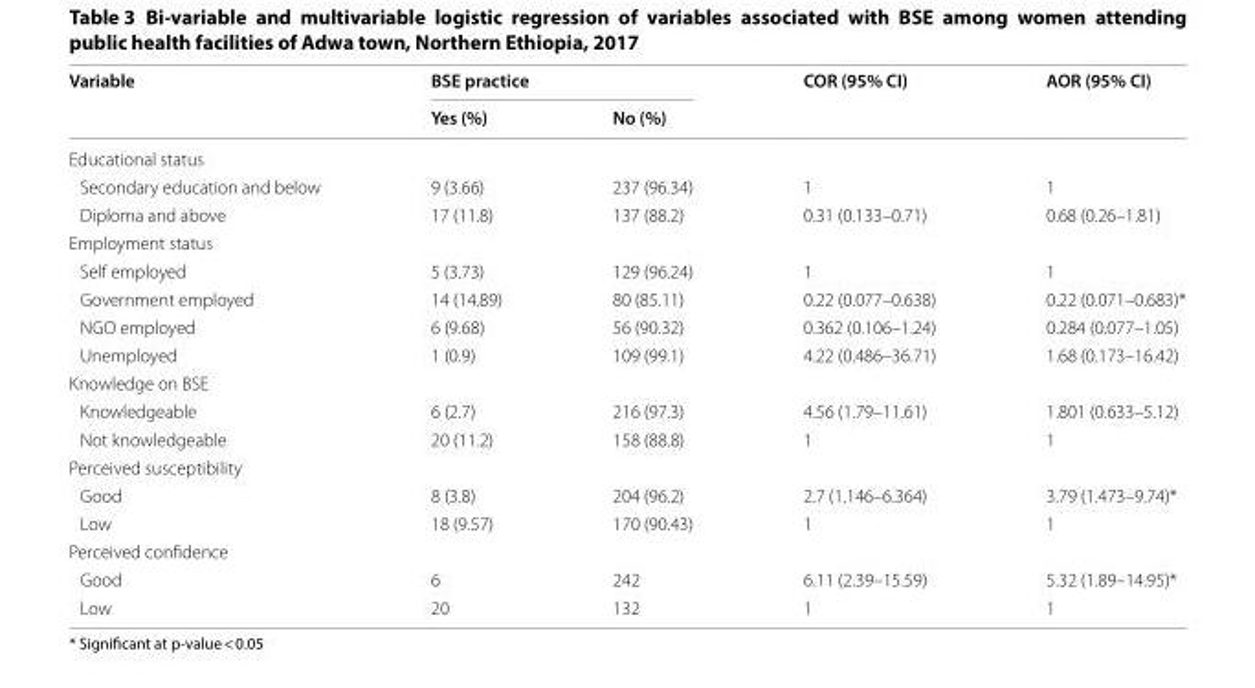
<table><thead><tr><td rowspan="2">Variable</td><td colspan="2">BSE practice</td><td rowspan="2">COR (95% CI)</td><td rowspan="2">AOR (95% CI)</td></tr><tr><td>Yes (%)</td><td>No (%)</td></tr></thead><tbody><tr><td colspan="5">Educational status</td></tr><tr><td>Secondary education and below</td><td>9 (3.66)</td><td>237 (96.34)</td><td>1</td><td>1</td></tr><tr><td>Diploma and above</td><td>17 (11.8)</td><td>137 (88.2)</td><td>0.31 (0.133–0.71)</td><td>0.68 (0.26–1.81)</td></tr><tr><td colspan="5">Employment status</td></tr><tr><td>Self employed</td><td>5 (3.73)</td><td>129 (96.24)</td><td>1</td><td>1</td></tr><tr><td>Government employed</td><td>14 (14.89)</td><td>80 (85.11)</td><td>0.22 (0.077–0.638)</td><td>0.22 (0.071–0.683)*</td></tr><tr><td>NGO employed</td><td>6 (9.68)</td><td>56 (90.32)</td><td>0.362 (0.106–1.24)</td><td>0.284 (0.077–1.05)</td></tr><tr><td>Unemployed</td><td>1 (0.9)</td><td>109 (99.1)</td><td>4.22 (0.486–36.71)</td><td>1.68 (0.173–16.42)</td></tr><tr><td colspan="5">Knowledge on BSE</td></tr><tr><td>Knowledgeable</td><td>6 (2.7)</td><td>216 (97.3)</td><td>4.56 (1.79–11.61)</td><td>1.801 (0.633–5.12)</td></tr><tr><td>Not knowledgeable</td><td>20 (11.2)</td><td>158 (88.8)</td><td>1</td><td>1</td></tr><tr><td colspan="5">Perceived susceptibility</td></tr><tr><td>Good</td><td>8 (3.8)</td><td>204 (96.2)</td><td>2.7 (1.146–6.364)</td><td>3.79 (1.473–9.74)*</td></tr><tr><td>Low</td><td>18 (9.57)</td><td>170 (90.43)</td><td>1</td><td>1</td></tr><tr><td colspan="5">Perceived confidence</td></tr><tr><td>Good</td><td>6</td><td>242</td><td>6.11 (2.39–15.59)</td><td>5.32 (1.89–14.95)*</td></tr><tr><td>Low</td><td>20</td><td>132</td><td>1</td><td>1</td></tr></tbody></table>